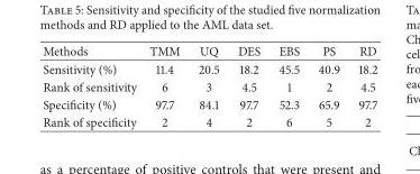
<table><thead><tr><td>Methods</td><td>TMM</td><td>UQ</td><td>DES</td><td>EBS</td><td>PS</td><td>RD</td></tr></thead><tbody><tr><td>Sensitivity (%)</td><td>11.4</td><td>20.5</td><td>18.2</td><td>45.5</td><td>40.9</td><td>18.2</td></tr><tr><td>Rank of sensitivity</td><td>6</td><td>3</td><td>4.5</td><td>1</td><td>2</td><td>4.5</td></tr><tr><td>Specificity (%)</td><td>97.7</td><td>84.1</td><td>97.7</td><td>52.3</td><td>65.9</td><td>97.7</td></tr><tr><td>Rank of specificity</td><td>2</td><td>4</td><td>2</td><td>6</td><td>5</td><td>2</td></tr></tbody></table>